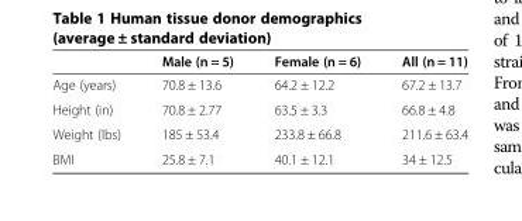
<table><thead><tr><td></td><td>Male (n = 5)</td><td>Female (n = 6)</td><td>All (n = 11)</td></tr></thead><tbody><tr><td>Age (years)</td><td>70.8 ± 13.6</td><td>64.2 ± 12.2</td><td>67.2 ± 13.7</td></tr><tr><td>Height (in)</td><td>70.8 ± 2.77</td><td>63.5 ± 3.3</td><td>66.8 ± 4.8</td></tr><tr><td>Weight (lbs)</td><td>185 ± 53.4</td><td>233.8 ± 66.8</td><td>211.6 ± 63.4</td></tr><tr><td>BMI</td><td>25.8 ± 7.1</td><td>40.1 ± 12.1</td><td>34 ± 12.5</td></tr></tbody></table>